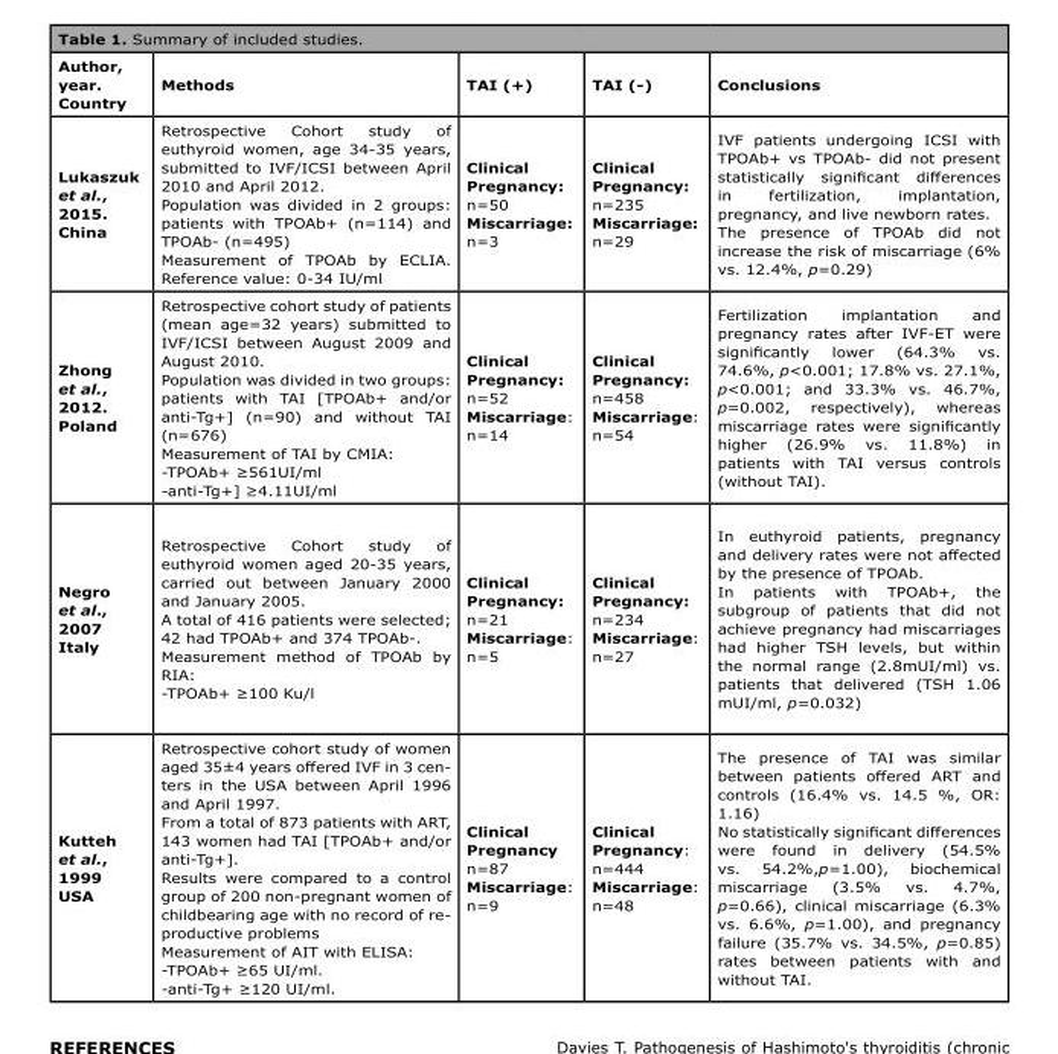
<table><thead><tr><td>Author, year. Country</td><td>Methods</td><td>TAI (+)</td><td>TAI (-)</td><td>Conclusions</td></tr></thead><tbody><tr><td>Lukaszuk et al., 2015. China</td><td>Retrospective Cohort study of euthyroid women, age 34-35 years, submitted to IVF/ICSI between April 2010 and April 2012. Population was divided in 2 groups: patients with TPOAb+ (n=114) and TPOAb- (n=495) Measurement of TPOAb by ECLIA. Reference value: 0-34 IU/ml</td><td>Clinical Pregnancy: n=50 Miscarriage: n=3</td><td>Clinical Pregnancy: n=235 Miscarriage: n=29</td><td>IVF patients undergoing ICSI with TPOAb+ vs TPOAb- did not present statistically significant differences in fertilization, implantation, pregnancy, and live newborn rates. The presence of TPOAb did not increase the risk of miscarriage (6% vs. 12.4%, p=0.29)</td></tr><tr><td>Zhong et al., 2012. Poland</td><td>Retrospective cohort study of patients (mean age=32 years) submitted to IVF/ICSI between August 2009 and August 2010. Population was divided in two groups: patients with TAI [TPOAb+ and/or anti-Tg+] (n=90) and without TAI (n=676) Measurement of TAI by CMIA: -TPOAb+ ≥561UI/ml -anti-Tg+] ≥4.11UI/ml</td><td>Clinical Pregnancy: n=52 Miscarriage: n=14</td><td>Clinical Pregnancy: n=458 Miscarriage: n=54</td><td>Fertilization implantation and pregnancy rates after IVF-ET were significantly lower (64.3% vs. 74.6%, p&lt;0.001; 17.8% vs. 27.1%, p&lt;0.001; and 33.3% vs. 46.7%, p=0.002, respectively), whereas miscarriage rates were significantly higher (26.9% vs. 11.8%) in patients with TAI versus controls (without TAI).</td></tr><tr><td>Negro et al., 2007 Italy</td><td>Retrospective Cohort study of euthyroid women aged 20-35 years, carried out between January 2000 and January 2005. A total of 416 patients were selected; 42 had TPOAb+ and 374 TPOAb-. Measurement method of TPOAb by RIA: -TPOAb+ ≥100 Ku/l</td><td>Clinical Pregnancy: n=21 Miscarriage: n=5</td><td>Clinical Pregnancy: n=234 Miscarriage: n=27</td><td>In euthyroid patients, pregnancy and delivery rates were not affected by the presence of TPOAb. In patients with TPOAb+, the subgroup of patients that did not achieve pregnancy had miscarriages had higher TSH levels, but within the normal range (2.8mUI/ml) vs. patients that delivered (TSH 1.06 mUI/ml, p=0.032)</td></tr><tr><td>Kutteh et al., 1999 USA</td><td>Retrospective cohort study of women aged 35±4 years offered IVF in 3 cen- ters in the USA between April 1996 and April 1997. From a total of 873 patients with ART, 143 women had TAI [TPOAb+ and/or anti-Tg+]. Results were compared to a control group of 200 non-pregnant women of childbearing age with no record of re- productive problems Measurement of AIT with ELISA: -TPOAb+ ≥65 UI/ml. -anti-Tg+ ≥120 UI/ml.</td><td>Clinical Pregnancy n=87 Miscarriage: n=9</td><td>Clinical Pregnancy: n=444 Miscarriage: n=48</td><td>The presence of TAI was similar between patients offered ART and controls (16.4% vs. 14.5 %, OR: 1.16) No statistically significant differences were found in delivery (54.5% vs. 54.2%,p=1.00), biochemical miscarriage (3.5% vs. 4.7%, p=0.66), clinical miscarriage (6.3% vs. 6.6%, p=1.00), and pregnancy failure (35.7% vs. 34.5%, p=0.85) rates between patients with and without TAI.</td></tr></tbody></table>